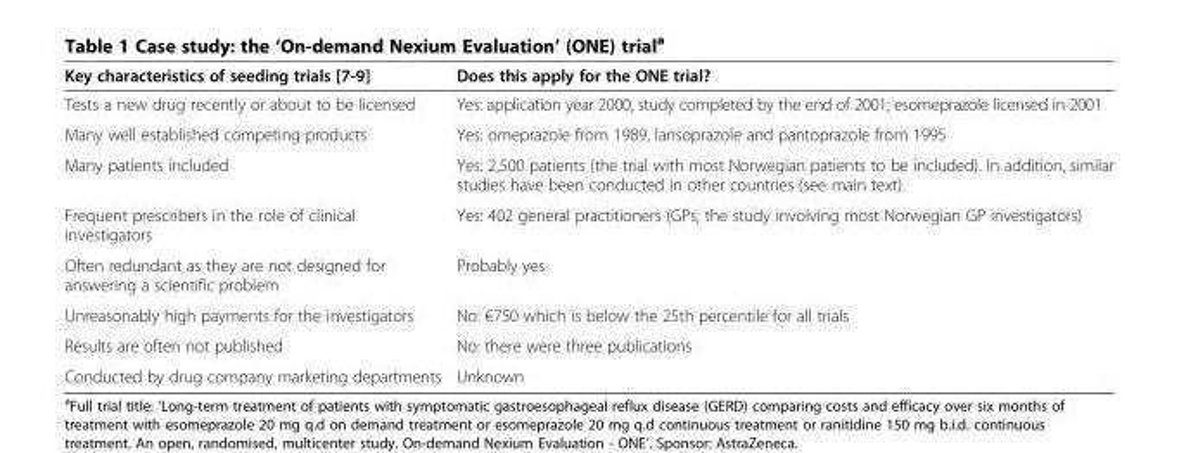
<table><thead><tr><td>Key characteristics of seeding trials [7-9]</td><td>Does this apply for the ONE trial?</td></tr></thead><tbody><tr><td>Tests a new drug recently or about to be licensed</td><td>Yes: application year 2000, study completed by the end of 2001; esomeprazole licensed in 2001</td></tr><tr><td>Many well established competing products</td><td>Yes: omeprazole from 1989, lansoprazole and pantoprazole from 1995</td></tr><tr><td>Many patients included</td><td>Yes: 2,500 patients (the trial with most Norwegian patients to be included). In addition, similar studies have been conducted in other countries (see main text).</td></tr><tr><td>Frequent prescribers in the role of clinical investigators</td><td>Yes: 402 general practitioners (GPs; the study involving most Norwegian GP investigators)</td></tr><tr><td>Often redundant as they are not designed for answering a scientific problem</td><td>Probably yes</td></tr><tr><td>Unreasonably high payments for the investigators</td><td>No: €750 which is below the 25th percentile for all trials</td></tr><tr><td>Results are often not published</td><td>No: there were three publications</td></tr><tr><td>Conducted by drug company marketing departments</td><td>Unknown</td></tr></tbody></table>